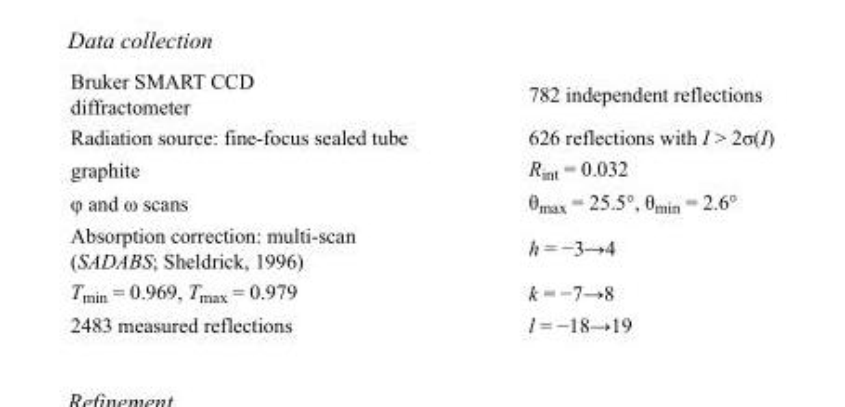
<table><tbody><tr><td>Bruker SMART CCD diffractometer</td><td>782 independent reflections</td></tr><tr><td>Radiation source: fine-focus sealed tube</td><td>626 reflections with I &gt; 2σ(I)</td></tr><tr><td>graphite</td><td>R<sub>int</sub> = 0.032</td></tr><tr><td>φ and ω scans</td><td>θ<sub>max</sub> = 25.5°, θ<sub>min</sub> = 2.6°</td></tr><tr><td>Absorption correction: multi-scan (SADABS; Sheldrick, 1996)</td><td>h = −3→4</td></tr><tr><td>T<sub>min</sub> = 0.969, T<sub>max</sub> = 0.979</td><td>k = −7→8</td></tr><tr><td>2483 measured reflections</td><td>l = −18→19</td></tr></tbody></table>